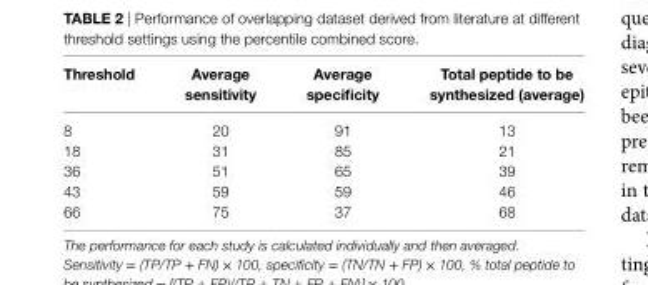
<table><thead><tr><td>Threshold</td><td>average sensitivity</td><td>average specificity</td><td>Total peptide to be synthesized (average)</td></tr></thead><tbody><tr><td>8</td><td>20</td><td>91</td><td>13</td></tr><tr><td>18</td><td>31</td><td>85</td><td>21</td></tr><tr><td>36</td><td>51</td><td>65</td><td>39</td></tr><tr><td>43</td><td>59</td><td>59</td><td>46</td></tr><tr><td>66</td><td>75</td><td>37</td><td>68</td></tr></tbody></table>